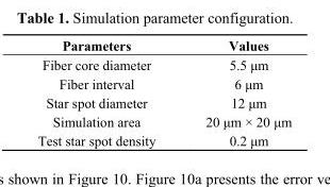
<table><thead><tr><td>Parameters</td><td>Values</td></tr></thead><tbody><tr><td>Fiber core diameter</td><td>5.5 μm</td></tr><tr><td>Fiber interval</td><td>6 μm</td></tr><tr><td>Star spot diameter</td><td>12 μm</td></tr><tr><td>Simulation area</td><td>20 μm × 20 μm</td></tr><tr><td>Test star spot density</td><td>0.2 μm</td></tr></tbody></table>